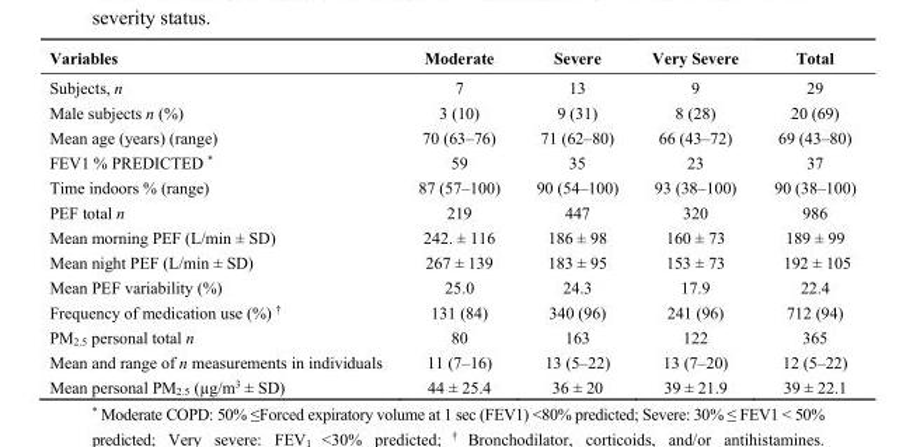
<table><thead><tr><td>Variables</td><td>Moderate</td><td>Severe</td><td>Very Severe</td><td>Total</td></tr></thead><tbody><tr><td>Subjects, n</td><td>7</td><td>13</td><td>9</td><td>29</td></tr><tr><td>Male subjects n (%)</td><td>3 (10)</td><td>9 (31)</td><td>8 (28)</td><td>20 (69)</td></tr><tr><td>Mean age (years) (range)</td><td>70 (63–76)</td><td>71 (62–80)</td><td>66 (43–72)</td><td>69 (43–80)</td></tr><tr><td>FEV1 % PREDICTED *</td><td>59</td><td>35</td><td>23</td><td>37</td></tr><tr><td>Time indoors % (range)</td><td>87 (57–100)</td><td>90 (54–100)</td><td>93 (38–100)</td><td>90 (38–100)</td></tr><tr><td>PEF total n</td><td>219</td><td>447</td><td>320</td><td>986</td></tr><tr><td>Mean morning PEF (L/min ± SD)</td><td>242. ± 116</td><td>186 ± 98</td><td>160 ± 73</td><td>189 ± 99</td></tr><tr><td>Mean night PEF (L/min ± SD)</td><td>267 ± 139</td><td>183 ± 95</td><td>153 ± 73</td><td>192 ± 105</td></tr><tr><td>Mean PEF variability (%)</td><td>25.0</td><td>24.3</td><td>17.9</td><td>22.4</td></tr><tr><td>Frequency of medication use (%) <sup>†</sup></td><td>131 (84)</td><td>340 (96)</td><td>241 (96)</td><td>712 (94)</td></tr><tr><td>PM<sub>2.5</sub> personal total n</td><td>80</td><td>163</td><td>122</td><td>365</td></tr><tr><td>Mean and range of n measurements in individuals</td><td>11 (7–16)</td><td>13 (5–22)</td><td>13 (7–20)</td><td>12 (5–22)</td></tr><tr><td>Mean personal PM<sub>2.5</sub> (µg/m<sup>3</sup> ± SD)</td><td>44 ± 25.4</td><td>36 ± 20</td><td>39 ± 21.9</td><td>39 ± 22.1</td></tr></tbody></table>